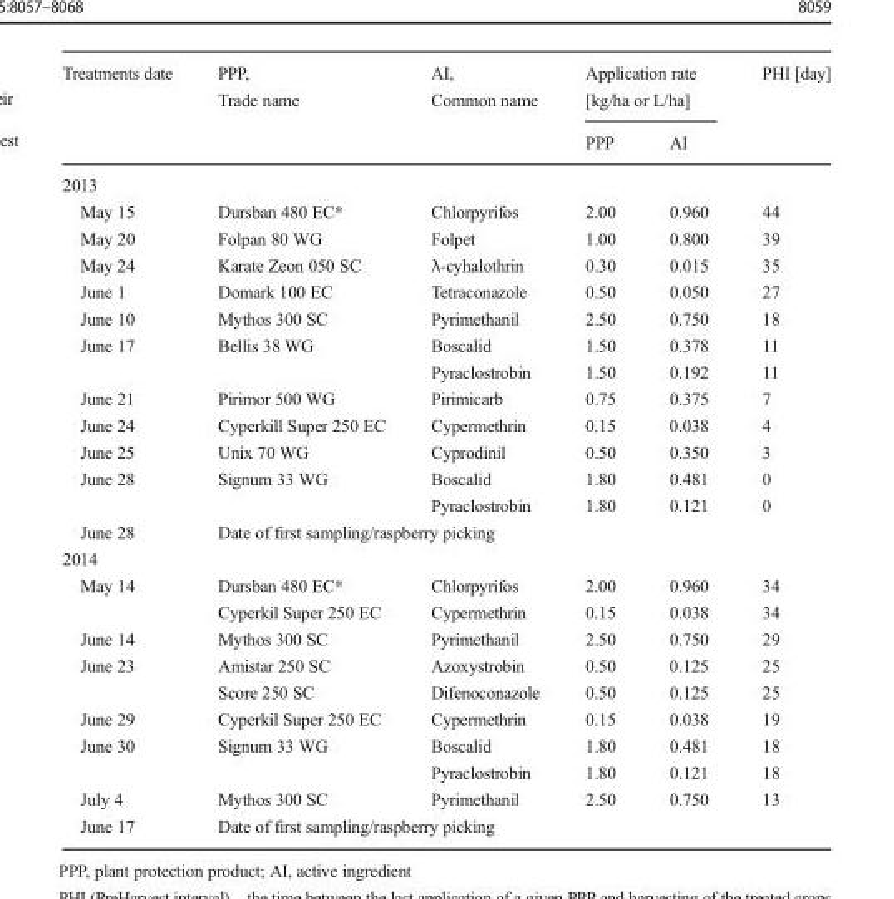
<table><thead><tr><td rowspan="2">Treatments date</td><td rowspan="2">PPP, Trade name</td><td rowspan="2">AI, Common name</td><td colspan="2">Application rate [kg/ha or L/ha]</td><td rowspan="2">PHI [day]</td></tr><tr><td>PPP</td><td>AI</td></tr></thead><tbody><tr><td colspan="6">2013</td></tr><tr><td>May 15</td><td>Dursban 480 EC*</td><td>Chlorpyrifos</td><td>2.00</td><td>0.960</td><td>44</td></tr><tr><td>May 20</td><td>Folpan 80 WG</td><td>Folpet</td><td>1.00</td><td>0.800</td><td>39</td></tr><tr><td>May 24</td><td>Karate Zeon 050 SC</td><td>λ-cyhalothrin</td><td>0.30</td><td>0.015</td><td>35</td></tr><tr><td>June 1</td><td>Domark 100 EC</td><td>Tetraconazole</td><td>0.50</td><td>0.050</td><td>27</td></tr><tr><td>June 10</td><td>Mythos 300 SC</td><td>Pyrimethanil</td><td>2.50</td><td>0.750</td><td>18</td></tr><tr><td rowspan="2">June 17</td><td rowspan="2">Bellis 38 WG</td><td>Boscalid</td><td>1.50</td><td>0.378</td><td>11</td></tr><tr><td>Pyraclostrobin</td><td>1.50</td><td>0.192</td><td>11</td></tr><tr><td>June 21</td><td>Pirimor 500 WG</td><td>Pirimicarb</td><td>0.75</td><td>0.375</td><td>7</td></tr><tr><td>June 24</td><td>Cyperkill Super 250 EC</td><td>Cypermethrin</td><td>0.15</td><td>0.038</td><td>4</td></tr><tr><td>June 25</td><td>Unix 70 WG</td><td>Cyprodinil</td><td>0.50</td><td>0.350</td><td>3</td></tr><tr><td rowspan="2">June 28</td><td rowspan="2">Signum 33 WG</td><td>Boscalid</td><td>1.80</td><td>0.481</td><td>0</td></tr><tr><td>Pyraclostrobin</td><td>1.80</td><td>0.121</td><td>0</td></tr><tr><td>June 28</td><td colspan="5">Date of first sampling/raspberry picking</td></tr><tr><td colspan="6">2014</td></tr><tr><td rowspan="2">May 14</td><td>Dursban 480 EC*</td><td>Chlorpyrifos</td><td>2.00</td><td>0.960</td><td>34</td></tr><tr><td>Cyperkil Super 250 EC</td><td>Cypermethrin</td><td>0.15</td><td>0.038</td><td>34</td></tr><tr><td>June 14</td><td>Mythos 300 SC</td><td>Pyrimethanil</td><td>2.50</td><td>0.750</td><td>29</td></tr><tr><td rowspan="2">June 23</td><td>Amistar 250 SC</td><td>Azoxystrobin</td><td>0.50</td><td>0.125</td><td>25</td></tr><tr><td>Score 250 SC</td><td>Difenoconazole</td><td>0.50</td><td>0.125</td><td>25</td></tr><tr><td>June 29</td><td>Cyperkil Super 250 EC</td><td>Cypermethrin</td><td>0.15</td><td>0.038</td><td>19</td></tr><tr><td rowspan="2">June 30</td><td rowspan="2">Signum 33 WG</td><td>Boscalid</td><td>1.80</td><td>0.481</td><td>18</td></tr><tr><td>Pyraclostrobin</td><td>1.80</td><td>0.121</td><td>18</td></tr><tr><td>July 4</td><td>Mythos 300 SC</td><td>Pyrimethanil</td><td>2.50</td><td>0.750</td><td>13</td></tr><tr><td>June 17</td><td colspan="5">Date of first sampling/raspberry picking</td></tr></tbody></table>